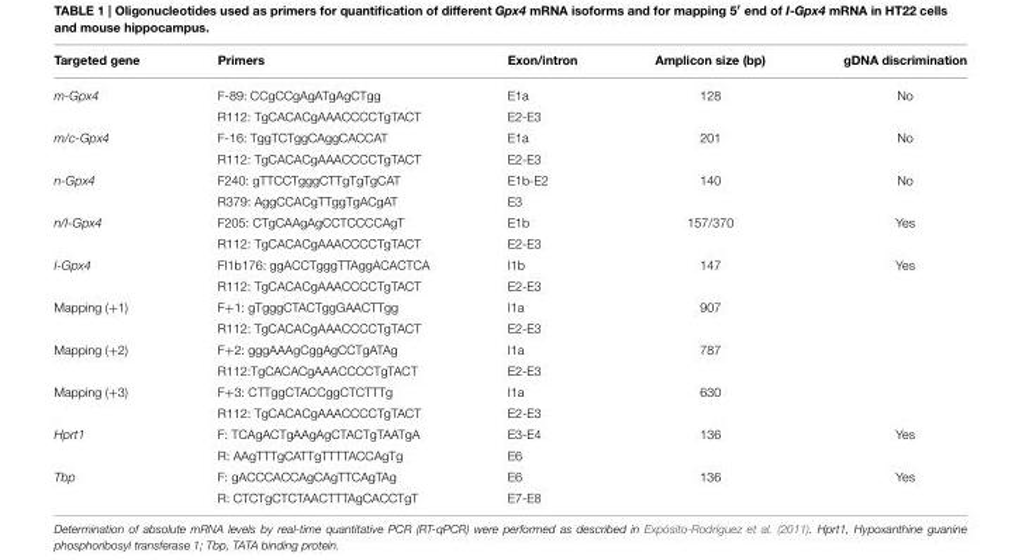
<table><thead><tr><td>Targeted gene</td><td>Primers</td><td>Exon/intron</td><td>Amplicon size (bp)</td><td>gDNA discrimination</td></tr></thead><tbody><tr><td rowspan="2">m-Gpx4</td><td>F-89: CCgCCgAgATgAgCTgg</td><td>E1a</td><td>128</td><td>No</td></tr><tr><td>R112: TgCACACgAAACCCCTgTACT</td><td>E2-E3</td><td></td><td></td></tr><tr><td rowspan="2">m/c-Gpx4</td><td>F-16: TggTCTggCAggCACCAT</td><td>E1a</td><td>201</td><td>No</td></tr><tr><td>R112: TgCACACgAAACCCCTgTACT</td><td>E2-E3</td><td></td><td></td></tr><tr><td rowspan="2">n-Gpx4</td><td>F240: gTTCCTgggCTTgTgTgCAT</td><td>E1b-E2</td><td>140</td><td>No</td></tr><tr><td>R379: AggCCACgTTggTgACgAT</td><td>E3</td><td></td><td></td></tr><tr><td rowspan="2">n/I-Gpx4</td><td>F205: CTgCAAgAgCCTCCCCAgT</td><td>E1b</td><td>157/370</td><td>Yes</td></tr><tr><td>R112: TgCACACgAAACCCCTgTACT</td><td>E2-E3</td><td></td><td></td></tr><tr><td rowspan="2">I-Gpx4</td><td>FI1b176: ggACCTgggTTAggACACTCA</td><td>I1b</td><td>147</td><td>Yes</td></tr><tr><td>R112: TgCACACgAAACCCCTgTACT</td><td>E2-E3</td><td></td><td></td></tr><tr><td rowspan="2">Mapping (+1)</td><td>F+1: gTgggCTACTggGAACTTgg</td><td>I1a</td><td>907</td><td></td></tr><tr><td>R112: TgCACACgAAACCCCTgTACT</td><td>E2-E3</td><td></td><td></td></tr><tr><td rowspan="2">Mapping (+2)</td><td>F+2: gggAAAgCggAgCCTgATAg</td><td>I1a</td><td>787</td><td></td></tr><tr><td>R112:TgCACACgAAACCCCTgTACT</td><td>E2-E3</td><td></td><td></td></tr><tr><td rowspan="2">Mapping (+3)</td><td>F+3: CTTggCTACCggCTCTTTg</td><td>I1a</td><td>630</td><td></td></tr><tr><td>R112: TgCACACgAAACCCCTgTACT</td><td>E2-E3</td><td></td><td></td></tr><tr><td rowspan="2">Hprt1</td><td>F: TCAgACTgAAgAgCTACTgTAATgA</td><td>E3-E4</td><td>136</td><td>Yes</td></tr><tr><td>R: AAgTTTgCATTgTTTTACCAgTg</td><td>E6</td><td></td><td></td></tr><tr><td rowspan="2">Tbp</td><td>F: gACCCACCAgCAgTTCAgTAg</td><td>E6</td><td>136</td><td>Yes</td></tr><tr><td>R: CTCTgCTCTAACTTTAgCACCTgT</td><td>E7-E8</td><td></td><td></td></tr></tbody></table>